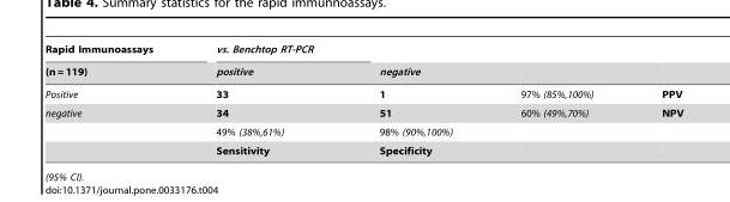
<table><thead><tr><td rowspan="2">Rapid Immunoassays (n = 119)</td><td rowspan="2">vs. Benchtop RT-PCR positive</td><td rowspan="2">negative</td><td rowspan="2"></td><td rowspan="2"></td></tr><tr></tr></thead><tbody><tr><td>Positive</td><td>33</td><td>1</td><td>97% (85%,100%)</td><td>PPV</td></tr><tr><td rowspan="3">negative</td><td>34</td><td>51</td><td>60% (49%,70%)</td><td>NPV</td></tr><tr><td>49% (38%,61%)</td><td>98% (90%,100%)</td><td></td><td></td></tr><tr><td>Sensitivity</td><td>Specificity</td><td></td><td></td></tr></tbody></table>